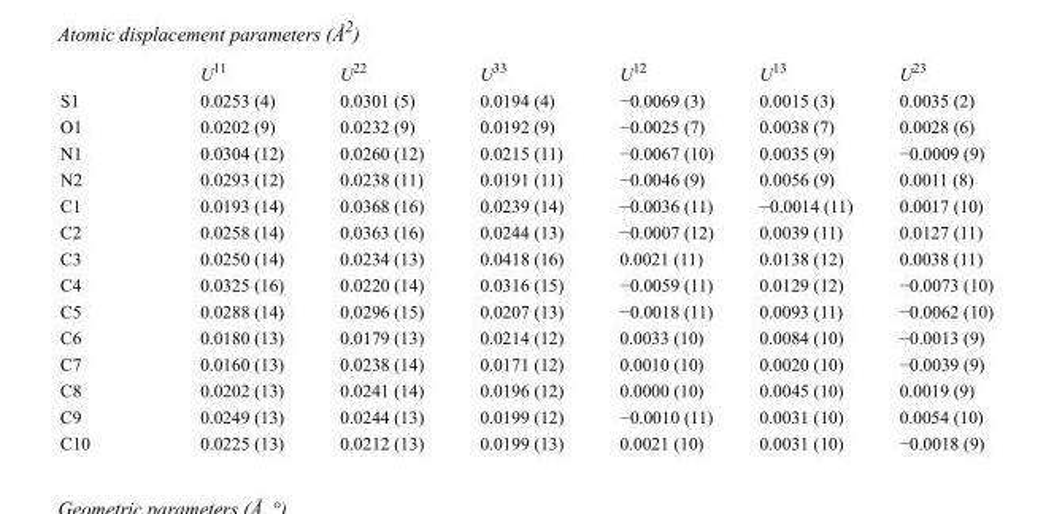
<table><thead><tr><td></td><td>U<sup>11</sup></td><td>U<sup>22</sup></td><td>U<sup>33</sup></td><td>U<sup>12</sup></td><td>U<sup>13</sup></td><td>U<sup>23</sup></td></tr></thead><tbody><tr><td>S1</td><td>0.0253 (4)</td><td>0.0301 (5)</td><td>0.0194 (4)</td><td>−0.0069 (3)</td><td>0.0015 (3)</td><td>0.0035 (2)</td></tr><tr><td>O1</td><td>0.0202 (9)</td><td>0.0232 (9)</td><td>0.0192 (9)</td><td>−0.0025 (7)</td><td>0.0038 (7)</td><td>0.0028 (6)</td></tr><tr><td>N1</td><td>0.0304 (12)</td><td>0.0260 (12)</td><td>0.0215 (11)</td><td>−0.0067 (10)</td><td>0.0035 (9)</td><td>−0.0009 (9)</td></tr><tr><td>N2</td><td>0.0293 (12)</td><td>0.0238 (11)</td><td>0.0191 (11)</td><td>−0.0046 (9)</td><td>0.0056 (9)</td><td>0.0011 (8)</td></tr><tr><td>C1</td><td>0.0193 (14)</td><td>0.0368 (16)</td><td>0.0239 (14)</td><td>−0.0036 (11)</td><td>−0.0014 (11)</td><td>0.0017 (10)</td></tr><tr><td>C2</td><td>0.0258 (14)</td><td>0.0363 (16)</td><td>0.0244 (13)</td><td>−0.0007 (12)</td><td>0.0039 (11)</td><td>0.0127 (11)</td></tr><tr><td>C3</td><td>0.0250 (14)</td><td>0.0234 (13)</td><td>0.0418 (16)</td><td>0.0021 (11)</td><td>0.0138 (12)</td><td>0.0038 (11)</td></tr><tr><td>C4</td><td>0.0325 (16)</td><td>0.0220 (14)</td><td>0.0316 (15)</td><td>−0.0059 (11)</td><td>0.0129 (12)</td><td>−0.0073 (10)</td></tr><tr><td>C5</td><td>0.0288 (14)</td><td>0.0296 (15)</td><td>0.0207 (13)</td><td>−0.0018 (11)</td><td>0.0093 (11)</td><td>−0.0062 (10)</td></tr><tr><td>C6</td><td>0.0180 (13)</td><td>0.0179 (13)</td><td>0.0214 (12)</td><td>0.0033 (10)</td><td>0.0084 (10)</td><td>−0.0013 (9)</td></tr><tr><td>C7</td><td>0.0160 (13)</td><td>0.0238 (14)</td><td>0.0171 (12)</td><td>0.0010 (10)</td><td>0.0020 (10)</td><td>−0.0039 (9)</td></tr><tr><td>C8</td><td>0.0202 (13)</td><td>0.0241 (14)</td><td>0.0196 (12)</td><td>0.0000 (10)</td><td>0.0045 (10)</td><td>0.0019 (9)</td></tr><tr><td>C9</td><td>0.0249 (13)</td><td>0.0244 (13)</td><td>0.0199 (12)</td><td>−0.0010 (11)</td><td>0.0031 (10)</td><td>0.0054 (10)</td></tr><tr><td>C10</td><td>0.0225 (13)</td><td>0.0212 (13)</td><td>0.0199 (13)</td><td>0.0021 (10)</td><td>0.0031 (10)</td><td>−0.0018 (9)</td></tr></tbody></table>